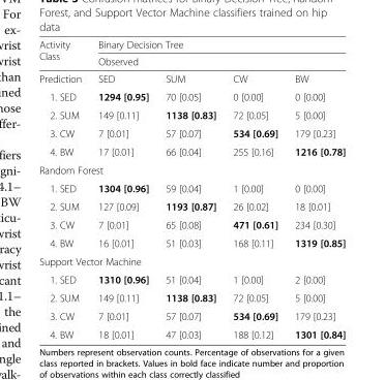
<table><thead><tr><td rowspan="3">Activity Class Prediction</td><td rowspan="2" colspan="4">Binary Decision Tree Observed</td></tr><tr></tr><tr><td>SED</td><td>SUM</td><td>CW</td><td>BW</td></tr></thead><tbody><tr><td>1. SED</td><td>1294 [0.95]</td><td>70 [0.05]</td><td>0 [0.00]</td><td>0 [0.00]</td></tr><tr><td>2. SUM</td><td>149 [0.11]</td><td>1138 [0.83]</td><td>72 [0.05]</td><td>5 [0.00]</td></tr><tr><td>3. CW</td><td>7 [0.01]</td><td>57 [0.07]</td><td>534 [0.69]</td><td>179 [0.23]</td></tr><tr><td>4. BW</td><td>17 [0.01]</td><td>66 [0.04]</td><td>255 [0.16]</td><td>1216 [0.78]</td></tr><tr><td colspan="5">Random Forest</td></tr><tr><td>1. SED</td><td>1304 [0.96]</td><td>59 [0.04]</td><td>1 [0.00]</td><td>0 [0.00]</td></tr><tr><td>2. SUM</td><td>127 [0.09]</td><td>1193 [0.87]</td><td>26 [0.02]</td><td>18 [0.01]</td></tr><tr><td>3. CW</td><td>7 [0.01]</td><td>65 [0.08]</td><td>471 [0.61]</td><td>234 [0.30]</td></tr><tr><td>4. BW</td><td>16 [0.01]</td><td>51 [0.03]</td><td>168 [0.11]</td><td>1319 [0.85]</td></tr><tr><td colspan="5">Support Vector Machine</td></tr><tr><td>1. SED</td><td>1310 [0.96]</td><td>51 [0.04]</td><td>1 [0.00]</td><td>2 [0.00]</td></tr><tr><td>2. SUM</td><td>149 [0.11]</td><td>1138 [0.83]</td><td>72 [0.05]</td><td>5 [0.00]</td></tr><tr><td>3. CW</td><td>7 [0.01]</td><td>57 [0.07]</td><td>534 [0.69]</td><td>179 [0.23]</td></tr><tr><td>4. BW</td><td>18 [0.01]</td><td>47 [0.03]</td><td>188 [0.12]</td><td>1301 [0.84]</td></tr></tbody></table>